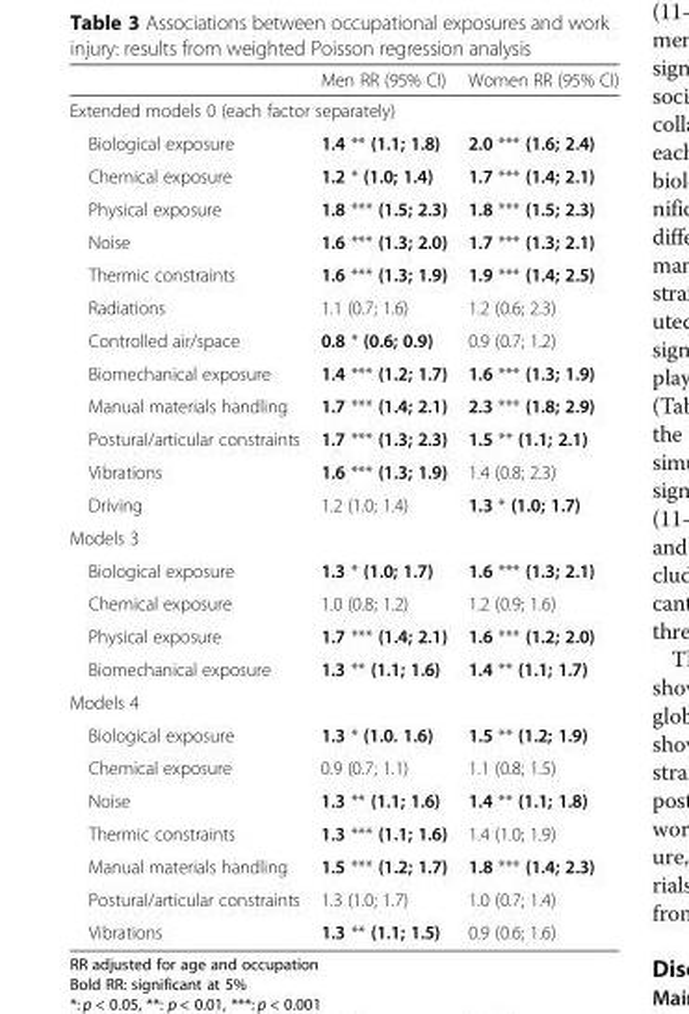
<table><thead><tr><td></td><td>Men RR (95% CI)</td><td>Women RR (95% CI)</td></tr></thead><tbody><tr><td colspan="3">Extended models 0 (each factor separately)</td></tr><tr><td>Biological exposure</td><td>1.4 ** (1.1; 1.8)</td><td>2.0 *** (1.6; 2.4)</td></tr><tr><td>Chemical exposure</td><td>1.2 * (1.0; 1.4)</td><td>1.7 *** (1.4; 2.1)</td></tr><tr><td>Physical exposure</td><td>1.8 *** (1.5; 2.3)</td><td>1.8 *** (1.5; 2.3)</td></tr><tr><td>Noise</td><td>1.6 *** (1.3; 2.0)</td><td>1.7 *** (1.3; 2.1)</td></tr><tr><td>Thermic constraints</td><td>1.6 *** (1.3; 1.9)</td><td>1.9 *** (1.4; 2.5)</td></tr><tr><td>Radiations</td><td>1.1 (0.7; 1.6)</td><td>1.2 (0.6; 2.3)</td></tr><tr><td>Controlled air/space</td><td>0.8 * (0.6; 0.9)</td><td>0.9 (0.7; 1.2)</td></tr><tr><td>Biomechanical exposure</td><td>1.4 *** (1.2; 1.7)</td><td>1.6 *** (1.3; 1.9)</td></tr><tr><td>Manual materials handling</td><td>1.7 *** (1.4; 2.1)</td><td>2.3 *** (1.8; 2.9)</td></tr><tr><td>Postural/articular constraints</td><td>1.7 *** (1.3; 2.3)</td><td>1.5 ** (1.1; 2.1)</td></tr><tr><td>Vibrations</td><td>1.6 *** (1.3; 1.9)</td><td>1.4 (0.8; 2.3)</td></tr><tr><td>Driving</td><td>1.2 (1.0; 1.4)</td><td>1.3 * (1.0; 1.7)</td></tr><tr><td colspan="3">Models 3</td></tr><tr><td>Biological exposure</td><td>1.3 * (1.0; 1.7)</td><td>1.6 *** (1.3; 2.1)</td></tr><tr><td>Chemical exposure</td><td>1.0 (0.8; 1.2)</td><td>1.2 (0.9; 1.6)</td></tr><tr><td>Physical exposure</td><td>1.7 *** (1.4; 2.1)</td><td>1.6 *** (1.2; 2.0)</td></tr><tr><td>Biomechanical exposure</td><td>1.3 ** (1.1; 1.6)</td><td>1.4 ** (1.1; 1.7)</td></tr><tr><td colspan="3">Models 4</td></tr><tr><td>Biological exposure</td><td>1.3 * (1.0. 1.6)</td><td>1.5 ** (1.2; 1.9)</td></tr><tr><td>Chemical exposure</td><td>0.9 (0.7; 1.1)</td><td>1.1 (0.8; 1.5)</td></tr><tr><td>Noise</td><td>1.3 ** (1.1; 1.6)</td><td>1.4 ** (1.1; 1.8)</td></tr><tr><td>Thermic constraints</td><td>1.3 *** (1.1; 1.6)</td><td>1.4 (1.0; 1.9)</td></tr><tr><td>Manual materials handling</td><td>1.5 *** (1.2; 1.7)</td><td>1.8 *** (1.4; 2.3)</td></tr><tr><td>Postural/articular constraints</td><td>1.3 (1.0; 1.7)</td><td>1.0 (0.7; 1.4)</td></tr><tr><td>Vibrations</td><td>1.3 ** (1.1; 1.5)</td><td>0.9 (0.6; 1.6)</td></tr></tbody></table>